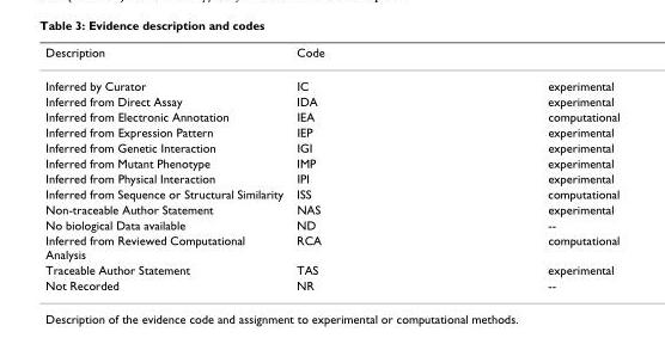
<table><thead><tr><td>Description</td><td>Code</td><td></td></tr></thead><tbody><tr><td>Inferred by Curator</td><td>IC</td><td>experimental</td></tr><tr><td>Inferred from Direct Assay</td><td>IDA</td><td>experimental</td></tr><tr><td>Inferred from Electronic Annotation</td><td>IEA</td><td>computational</td></tr><tr><td>Inferred from Expression Pattern</td><td>IEP</td><td>experimental</td></tr><tr><td>Inferred from Genetic Interaction</td><td>IGI</td><td>experimental</td></tr><tr><td>Inferred from Mutant Phenotype</td><td>IMP</td><td>experimental</td></tr><tr><td>Inferred from Physical Interaction</td><td>IPI</td><td>experimental</td></tr><tr><td>Inferred from Sequence or Structural Similarity</td><td>ISS</td><td>computational</td></tr><tr><td>Non-traceable Author Statement</td><td>NAS</td><td>experimental</td></tr><tr><td>No biological Data available</td><td>ND</td><td>--</td></tr><tr><td>Inferred from Reviewed Computational Analysis</td><td>RCA</td><td>computational</td></tr><tr><td>Traceable Author Statement</td><td>TAS</td><td>experimental</td></tr><tr><td>Not Recorded</td><td>NR</td><td>--</td></tr></tbody></table>